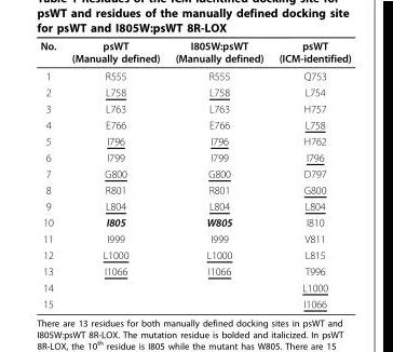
<table><thead><tr><td>No.</td><td>psWT (Manually defined)</td><td>I805W:psWT (Manually defined)</td><td>psWT (ICM-identified)</td></tr></thead><tbody><tr><td>1</td><td>R555</td><td>R555</td><td>Q753</td></tr><tr><td>2</td><td>L758</td><td>L758</td><td>L754</td></tr><tr><td>3</td><td>L763</td><td>L763</td><td>H757</td></tr><tr><td>4</td><td>E766</td><td>E766</td><td>L758</td></tr><tr><td>5</td><td>I796</td><td>I796</td><td>H762</td></tr><tr><td>6</td><td>I799</td><td>I799</td><td>I796</td></tr><tr><td>7</td><td>G800</td><td>G800</td><td>D797</td></tr><tr><td>8</td><td>R801</td><td>R801</td><td>G800</td></tr><tr><td>9</td><td>L804</td><td>L804</td><td>L804</td></tr><tr><td>10</td><td>I805</td><td>W805</td><td>I810</td></tr><tr><td>11</td><td>I999</td><td>I999</td><td>V811</td></tr><tr><td>12</td><td>L1000</td><td>L1000</td><td>L815</td></tr><tr><td>13</td><td>I1066</td><td>I1066</td><td>T996</td></tr><tr><td>14</td><td></td><td></td><td>L1000</td></tr><tr><td>15</td><td></td><td></td><td>I1066</td></tr></tbody></table>